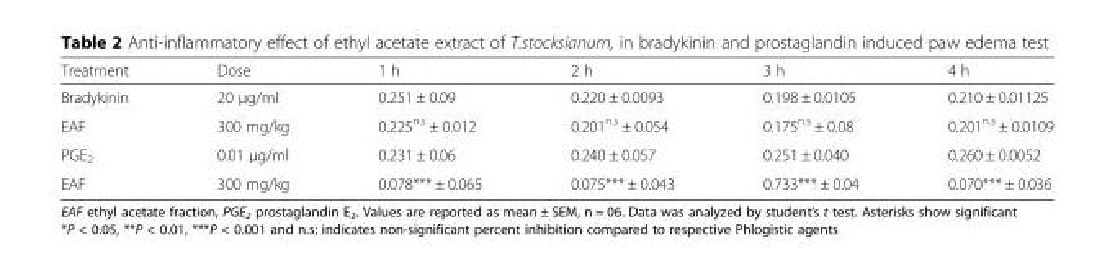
<table><thead><tr><td>Treatment</td><td>Dose</td><td>1 h</td><td>2 h</td><td>3 h</td><td>4 h</td></tr></thead><tbody><tr><td>Bradykinin</td><td>20 μg/ml</td><td>0.251 ± 0.09</td><td>0.220 ± 0.0093</td><td>0.198 ± 0.0105</td><td>0.210 ± 0.01125</td></tr><tr><td>EAF</td><td>300 mg/kg</td><td>0.225<sup>n.s</sup> ± 0.012</td><td>0.201<sup>n.s</sup> ± 0.054</td><td>0.175<sup>n.s</sup> ± 0.08</td><td>0.201<sup>n.s</sup> ± 0.0109</td></tr><tr><td>PGE<sub>2</sub></td><td>0.01 μg/ml</td><td>0.231 ± 0.06</td><td>0.240 ± 0.057</td><td>0.251 ± 0.040</td><td>0.260 ± 0.0052</td></tr><tr><td>EAF</td><td>300 mg/kg</td><td>0.078*** ± 0.065</td><td>0.075*** ± 0.043</td><td>0.733*** ± 0.04</td><td>0.070*** ± 0.036</td></tr></tbody></table>